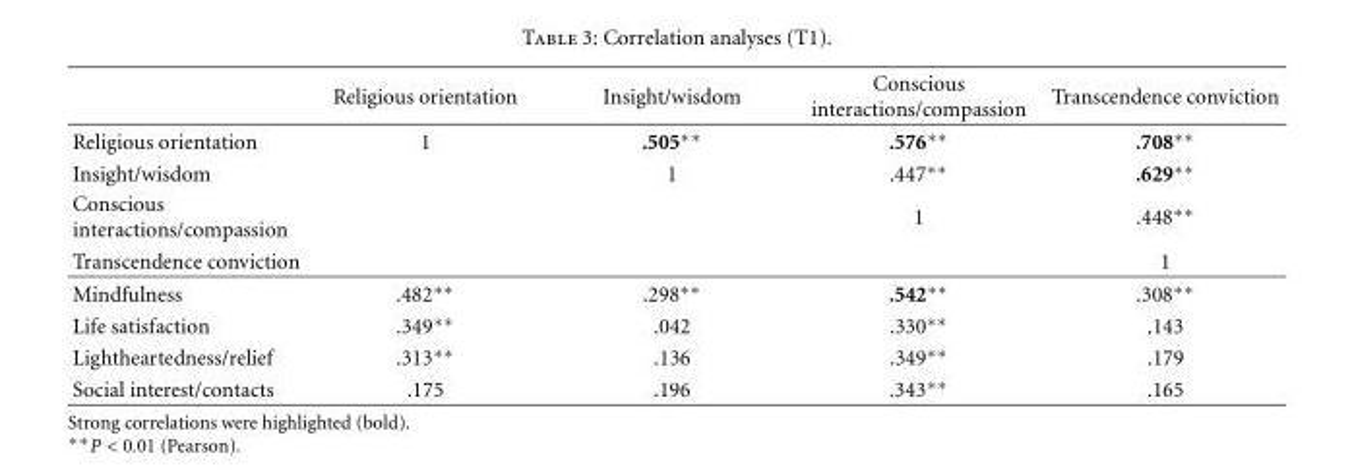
<table><thead><tr><td></td><td>Religious orientation</td><td>Insight/wisdom</td><td>Conscious interactions/compassion</td><td>Transcendence conviction</td></tr></thead><tbody><tr><td>Religious orientation</td><td>1</td><td>.505∗∗</td><td>.576∗∗</td><td>.708∗∗</td></tr><tr><td>Insight/wisdom</td><td></td><td>1</td><td>.447∗∗</td><td>.629∗∗</td></tr><tr><td>Conscious interactions/compassion</td><td></td><td></td><td>1</td><td>.448∗∗</td></tr><tr><td>Transcendence conviction</td><td></td><td></td><td></td><td>1</td></tr><tr><td>Mindfulness</td><td>.482∗∗</td><td>.298∗∗</td><td>.542∗∗</td><td>.308∗∗</td></tr><tr><td>Life satisfaction</td><td>.349∗∗</td><td>.042</td><td>.330∗∗</td><td>.143</td></tr><tr><td>Lightheartedness/relief</td><td>.313∗∗</td><td>.136</td><td>.349∗∗</td><td>.179</td></tr><tr><td>Social interest/contacts</td><td>.175</td><td>.196</td><td>.343∗∗</td><td>.165</td></tr></tbody></table>